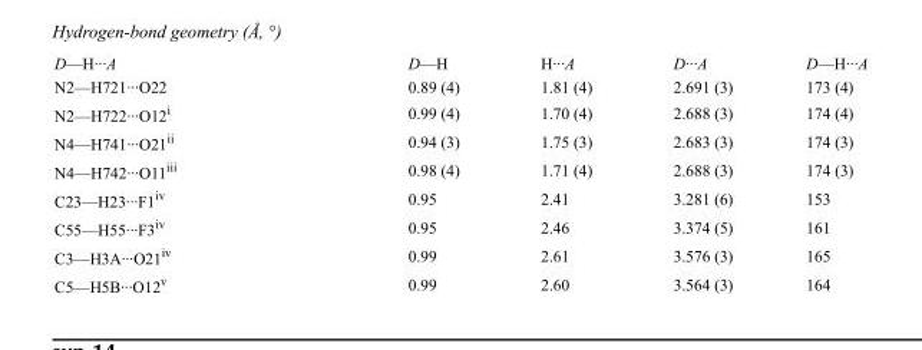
<table><tbody><tr><td>D—H···A</td><td>D—H</td><td>H···A</td><td>D···A</td><td>D—H···A</td></tr><tr><td>N2—H721···O22</td><td>0.89 (4)</td><td>1.81 (4)</td><td>2.691 (3)</td><td>173 (4)</td></tr><tr><td>N2—H722···O12<sup>i</sup></td><td>0.99 (4)</td><td>1.70 (4)</td><td>2.688 (3)</td><td>174 (4)</td></tr><tr><td>N4—H741···O21<sup>ii</sup></td><td>0.94 (3)</td><td>1.75 (3)</td><td>2.683 (3)</td><td>174 (3)</td></tr><tr><td>N4—H742···O11<sup>iii</sup></td><td>0.98 (4)</td><td>1.71 (4)</td><td>2.688 (3)</td><td>174 (3)</td></tr><tr><td>C23—H23···F1<sup>iv</sup></td><td>0.95</td><td>2.41</td><td>3.281 (6)</td><td>153</td></tr><tr><td>C55—H55···F3<sup>iv</sup></td><td>0.95</td><td>2.46</td><td>3.374 (5)</td><td>161</td></tr><tr><td>C3—H3A···O21<sup>iv</sup></td><td>0.99</td><td>2.61</td><td>3.576 (3)</td><td>165</td></tr><tr><td>C5—H5B···O12<sup>v</sup></td><td>0.99</td><td>2.60</td><td>3.564 (3)</td><td>164</td></tr></tbody></table>